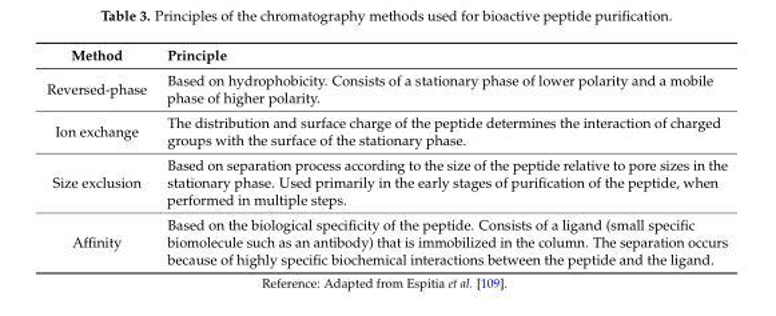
<table><thead><tr><td>Method</td><td>Principle</td></tr></thead><tbody><tr><td>Reversed-phase</td><td>Based on hydrophobicity. Consists of a stationary phase of lower polarity and a mobile phase of higher polarity.</td></tr><tr><td>Ion exchange</td><td>The distribution and surface charge of the peptide determines the interaction of charged groups with the surface of the stationary phase.</td></tr><tr><td>Size exclusion</td><td>Based on separation process according to the size of the peptide relative to pore sizes in the stationary phase. Used primarily in the early stages of purification of the peptide, when performed in multiple steps.</td></tr><tr><td>Affinity</td><td>Based on the biological specificity of the peptide. Consists of a ligand (small specific biomolecule such as an antibody) that is immobilized in the column. The separation occurs because of highly specific biochemical interactions between the peptide and the ligand.</td></tr></tbody></table>